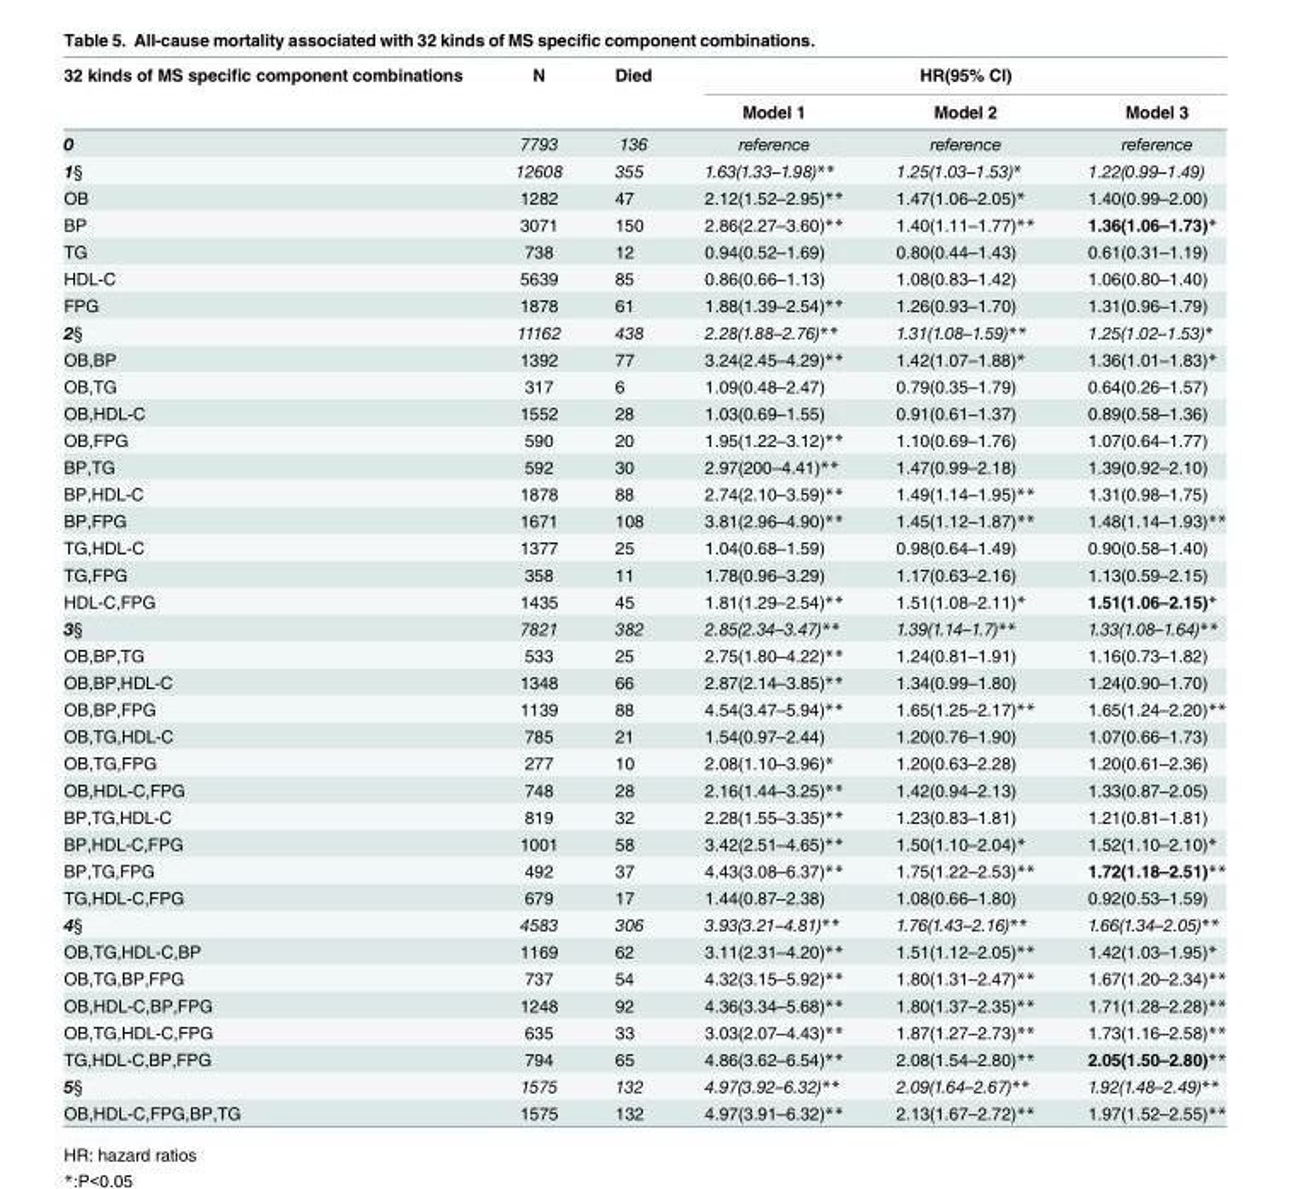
<table><thead><tr><td rowspan="2">32 kinds of MS specific component combinations</td><td rowspan="2">N</td><td rowspan="2">Died</td><td colspan="3">HR(95% CI)</td></tr><tr><td>Model 1</td><td>Model 2</td><td>Model 3</td></tr></thead><tbody><tr><td>0</td><td>7793</td><td>136</td><td>reference</td><td>reference</td><td>reference</td></tr><tr><td>1§</td><td>12608</td><td>355</td><td>1.63(1.33–1.98)**</td><td>1.25(1.03–1.53)*</td><td>1.22(0.99–1.49)</td></tr><tr><td>OB</td><td>1282</td><td>47</td><td>2.12(1.52–2.95)**</td><td>1.47(1.06–2.05)*</td><td>1.40(0.99–2.00)</td></tr><tr><td>BP</td><td>3071</td><td>150</td><td>2.86(2.27–3.60)**</td><td>1.40(1.11–1.77)**</td><td>1.36(1.06–1.73)*</td></tr><tr><td>TG</td><td>738</td><td>12</td><td>0.94(0.52–1.69)</td><td>0.80(0.44–1.43)</td><td>0.61(0.31–1.19)</td></tr><tr><td>HDL-C</td><td>5639</td><td>85</td><td>0.86(0.66–1.13)</td><td>1.08(0.83–1.42)</td><td>1.06(0.80–1.40)</td></tr><tr><td>FPG</td><td>1878</td><td>61</td><td>1.88(1.39–2.54)**</td><td>1.26(0.93–1.70)</td><td>1.31(0.96–1.79)</td></tr><tr><td>2§</td><td>11162</td><td>438</td><td>2.28(1.88–2.76)**</td><td>1.31(1.08–1.59)**</td><td>1.25(1.02–1.53)*</td></tr><tr><td>OB,BP</td><td>1392</td><td>77</td><td>3.24(2.45–4.29)**</td><td>1.42(1.07–1.88)*</td><td>1.36(1.01–1.83)*</td></tr><tr><td>OB,TG</td><td>317</td><td>6</td><td>1.09(0.48–2.47)</td><td>0.79(0.35–1.79)</td><td>0.64(0.26–1.57)</td></tr><tr><td>OB,HDL-C</td><td>1552</td><td>28</td><td>1.03(0.69–1.55)</td><td>0.91(0.61–1.37)</td><td>0.89(0.58–1.36)</td></tr><tr><td>OB,FPG</td><td>590</td><td>20</td><td>1.95(1.22–3.12)**</td><td>1.10(0.69–1.76)</td><td>1.07(0.64–1.77)</td></tr><tr><td>BP,TG</td><td>592</td><td>30</td><td>2.97(200–4.41)**</td><td>1.47(0.99–2.18)</td><td>1.39(0.92–2.10)</td></tr><tr><td>BP,HDL-C</td><td>1878</td><td>88</td><td>2.74(2.10–3.59)**</td><td>1.49(1.14–1.95)**</td><td>1.31(0.98–1.75)</td></tr><tr><td>BP,FPG</td><td>1671</td><td>108</td><td>3.81(2.96–4.90)**</td><td>1.45(1.12–1.87)**</td><td>1.48(1.14–1.93)**</td></tr><tr><td>TG,HDL-C</td><td>1377</td><td>25</td><td>1.04(0.68–1.59)</td><td>0.98(0.64–1.49)</td><td>0.90(0.58–1.40)</td></tr><tr><td>TG,FPG</td><td>358</td><td>11</td><td>1.78(0.96–3.29)</td><td>1.17(0.63–2.16)</td><td>1.13(0.59–2.15)</td></tr><tr><td>HDL-C,FPG</td><td>1435</td><td>45</td><td>1.81(1.29–2.54)**</td><td>1.51(1.08–2.11)*</td><td>1.51(1.06–2.15)*</td></tr><tr><td>3§</td><td>7821</td><td>382</td><td>2.85(2.34–3.47)**</td><td>1.39(1.14–1.7)**</td><td>1.33(1.08–1.64)**</td></tr><tr><td>OB,BP,TG</td><td>533</td><td>25</td><td>2.75(1.80–4.22)**</td><td>1.24(0.81–1.91)</td><td>1.16(0.73–1.82)</td></tr><tr><td>OB,BP,HDL-C</td><td>1348</td><td>66</td><td>2.87(2.14–3.85)**</td><td>1.34(0.99–1.80)</td><td>1.24(0.90–1.70)</td></tr><tr><td>OB,BP,FPG</td><td>1139</td><td>88</td><td>4.54(3.47–5.94)**</td><td>1.65(1.25–2.17)**</td><td>1.65(1.24–2.20)**</td></tr><tr><td>OB,TG,HDL-C</td><td>785</td><td>21</td><td>1.54(0.97–2.44)</td><td>1.20(0.76–1.90)</td><td>1.07(0.66–1.73)</td></tr><tr><td>OB,TG,FPG</td><td>277</td><td>10</td><td>2.08(1.10–3.96)*</td><td>1.20(0.63–2.28)</td><td>1.20(0.61–2.36)</td></tr><tr><td>OB,HDL-C,FPG</td><td>748</td><td>28</td><td>2.16(1.44–3.25)**</td><td>1.42(0.94–2.13)</td><td>1.33(0.87–2.05)</td></tr><tr><td>BP,TG,HDL-C</td><td>819</td><td>32</td><td>2.28(1.55–3.35)**</td><td>1.23(0.83–1.81)</td><td>1.21(0.81–1.81)</td></tr><tr><td>BP,HDL-C,FPG</td><td>1001</td><td>58</td><td>3.42(2.51–4.65)**</td><td>1.50(1.10–2.04)*</td><td>1.52(1.10–2.10)*</td></tr><tr><td>BP,TG,FPG</td><td>492</td><td>37</td><td>4.43(3.08–6.37)**</td><td>1.75(1.22–2.53)**</td><td>1.72(1.18–2.51)**</td></tr><tr><td>TG,HDL-C,FPG</td><td>679</td><td>17</td><td>1.44(0.87–2.38)</td><td>1.08(0.66–1.80)</td><td>0.92(0.53–1.59)</td></tr><tr><td>4§</td><td>4583</td><td>306</td><td>3.93(3.21–4.81)**</td><td>1.76(1.43–2.16)**</td><td>1.66(1.34–2.05)**</td></tr><tr><td>OB,TG,HDL-C,BP</td><td>1169</td><td>62</td><td>3.11(2.31–4.20)**</td><td>1.51(1.12–2.05)**</td><td>1.42(1.03–1.95)*</td></tr><tr><td>OB,TG,BP,FPG</td><td>737</td><td>54</td><td>4.32(3.15–5.92)**</td><td>1.80(1.31–2.47)**</td><td>1.67(1.20–2.34)**</td></tr><tr><td>OB,HDL-C,BP,FPG</td><td>1248</td><td>92</td><td>4.36(3.34–5.68)**</td><td>1.80(1.37–2.35)**</td><td>1.71(1.28–2.28)**</td></tr><tr><td>OB,TG,HDL-C,FPG</td><td>635</td><td>33</td><td>3.03(2.07–4.43)**</td><td>1.87(1.27–2.73)**</td><td>1.73(1.16–2.58)**</td></tr><tr><td>TG,HDL-C,BP,FPG</td><td>794</td><td>65</td><td>4.86(3.62–6.54)**</td><td>2.08(1.54–2.80)**</td><td>2.05(1.50–2.80)**</td></tr><tr><td>5§</td><td>1575</td><td>132</td><td>4.97(3.92–6.32)**</td><td>2.09(1.64–2.67)**</td><td>1.92(1.48–2.49)**</td></tr><tr><td>OB,HDL-C,FPG,BP,TG</td><td>1575</td><td>132</td><td>4.97(3.91–6.32)**</td><td>2.13(1.67–2.72)**</td><td>1.97(1.52–2.55)**</td></tr></tbody></table>